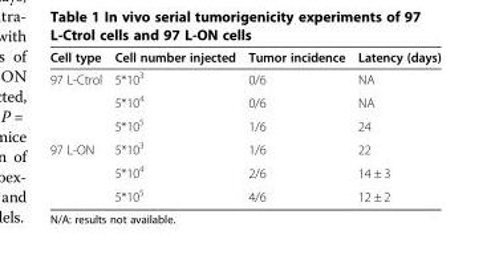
<table><thead><tr><td>Cell type</td><td>Cell number injected</td><td>Tumor incidence</td><td>Latency (days)</td></tr></thead><tbody><tr><td rowspan="3">97 L-Ctrol</td><td>5*10<sup>3</sup></td><td>0/6</td><td>NA</td></tr><tr><td>5*10<sup>4</sup></td><td>0/6</td><td>NA</td></tr><tr><td>5*10<sup>5</sup></td><td>1/6</td><td>24</td></tr><tr><td rowspan="3">97 L-ON</td><td>5*10<sup>3</sup></td><td>1/6</td><td>22</td></tr><tr><td>5*10<sup>4</sup></td><td>2/6</td><td>14 ± 3</td></tr><tr><td>5*10<sup>5</sup></td><td>4/6</td><td>12 ± 2</td></tr></tbody></table>